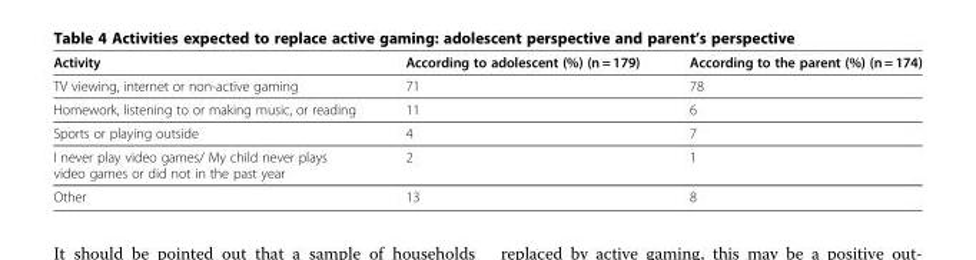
<table><thead><tr><td>Activity</td><td>According to adolescent (%) (n = 179)</td><td>According to the parent (%) (n = 174)</td></tr></thead><tbody><tr><td>TV viewing, internet or non-active gaming</td><td>71</td><td>78</td></tr><tr><td>Homework, listening to or making music, or reading</td><td>11</td><td>6</td></tr><tr><td>Sports or playing outside</td><td>4</td><td>7</td></tr><tr><td>I never play video games/ My child never plays video games or did not in the past year</td><td>2</td><td>1</td></tr><tr><td>Other</td><td>13</td><td>8</td></tr></tbody></table>